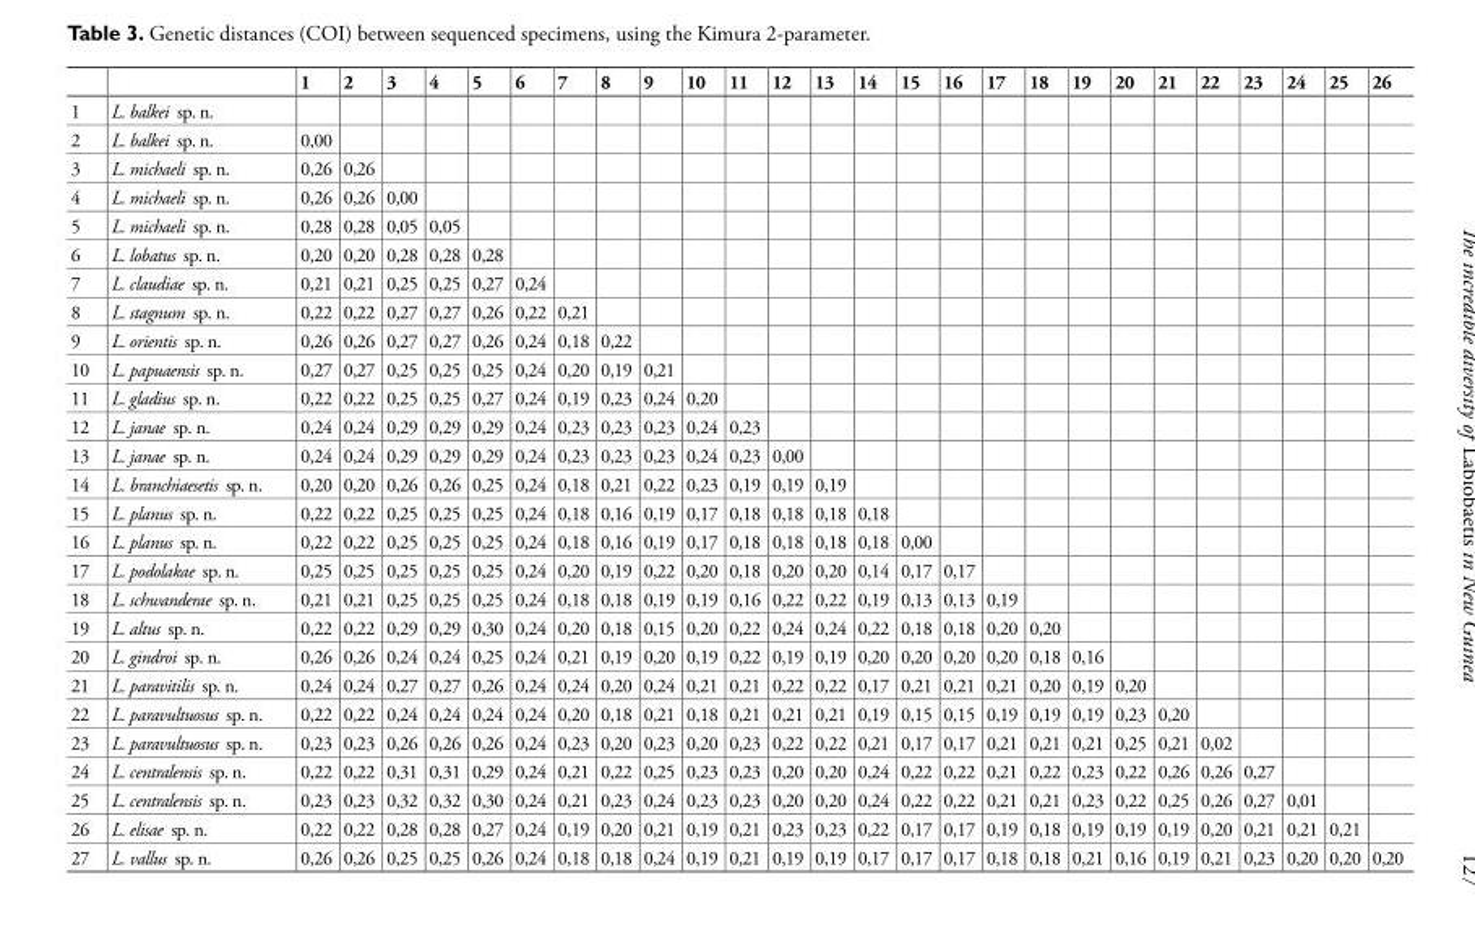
<table><thead><tr><td></td><td></td><td>1</td><td>2</td><td>3</td><td>4</td><td>5</td><td>6</td><td>7</td><td>8</td><td>9</td><td>10</td><td>11</td><td>12</td><td>13</td><td>14</td><td>15</td><td>16</td><td>17</td><td>18</td><td>19</td><td>20</td><td>21</td><td>22</td><td>23</td><td>24</td><td>25</td><td>26</td></tr></thead><tbody><tr><td>1</td><td>L. balkei sp. n.</td><td></td><td></td><td></td><td></td><td></td><td></td><td></td><td></td><td></td><td></td><td></td><td></td><td></td><td></td><td></td><td></td><td></td><td></td><td></td><td></td><td></td><td></td><td></td><td></td><td></td><td></td></tr><tr><td>2</td><td>L. balkei sp. n.</td><td>0,00</td><td></td><td></td><td></td><td></td><td></td><td></td><td></td><td></td><td></td><td></td><td></td><td></td><td></td><td></td><td></td><td></td><td></td><td></td><td></td><td></td><td></td><td></td><td></td><td></td><td></td></tr><tr><td>3</td><td>L. michaeli sp. n.</td><td>0,26</td><td>0,26</td><td></td><td></td><td></td><td></td><td></td><td></td><td></td><td></td><td></td><td></td><td></td><td></td><td></td><td></td><td></td><td></td><td></td><td></td><td></td><td></td><td></td><td></td><td></td><td></td></tr><tr><td>4</td><td>L. michaeli sp. n.</td><td>0,26</td><td>0,26</td><td>0,00</td><td></td><td></td><td></td><td></td><td></td><td></td><td></td><td></td><td></td><td></td><td></td><td></td><td></td><td></td><td></td><td></td><td></td><td></td><td></td><td></td><td></td><td></td><td></td></tr><tr><td>5</td><td>L. michaeli sp. n.</td><td>0,28</td><td>0,28</td><td>0,05</td><td>0,05</td><td></td><td></td><td></td><td></td><td></td><td></td><td></td><td></td><td></td><td></td><td></td><td></td><td></td><td></td><td></td><td></td><td></td><td></td><td></td><td></td><td></td><td></td></tr><tr><td>6</td><td>L. lobatus sp. n.</td><td>0,20</td><td>0,20</td><td>0,28</td><td>0,28</td><td>0,28</td><td></td><td></td><td></td><td></td><td></td><td></td><td></td><td></td><td></td><td></td><td></td><td></td><td></td><td></td><td></td><td></td><td></td><td></td><td></td><td></td><td></td></tr><tr><td>7</td><td>L. claudiae sp. n.</td><td>0,21</td><td>0,21</td><td>0,25</td><td>0,25</td><td>0,27</td><td>0,24</td><td></td><td></td><td></td><td></td><td></td><td></td><td></td><td></td><td></td><td></td><td></td><td></td><td></td><td></td><td></td><td></td><td></td><td></td><td></td><td></td></tr><tr><td>8</td><td>L. stagnum sp. n.</td><td>0,22</td><td>0,22</td><td>0,27</td><td>0,27</td><td>0,26</td><td>0,22</td><td>0,21</td><td></td><td></td><td></td><td></td><td></td><td></td><td></td><td></td><td></td><td></td><td></td><td></td><td></td><td></td><td></td><td></td><td></td><td></td><td></td></tr><tr><td>9</td><td>L. orientis sp. n.</td><td>0,26</td><td>0,26</td><td>0,27</td><td>0,27</td><td>0,26</td><td>0,24</td><td>0,18</td><td>0,22</td><td></td><td></td><td></td><td></td><td></td><td></td><td></td><td></td><td></td><td></td><td></td><td></td><td></td><td></td><td></td><td></td><td></td><td></td></tr><tr><td>10</td><td>L. papuaensis sp. n.</td><td>0,27</td><td>0,27</td><td>0,25</td><td>0,25</td><td>0,25</td><td>0,24</td><td>0,20</td><td>0,19</td><td>0,21</td><td></td><td></td><td></td><td></td><td></td><td></td><td></td><td></td><td></td><td></td><td></td><td></td><td></td><td></td><td></td><td></td><td></td></tr><tr><td>11</td><td>L. gladius sp. n.</td><td>0,22</td><td>0,22</td><td>0,25</td><td>0,25</td><td>0,27</td><td>0,24</td><td>0,19</td><td>0,23</td><td>0,24</td><td>0,20</td><td></td><td></td><td></td><td></td><td></td><td></td><td></td><td></td><td></td><td></td><td></td><td></td><td></td><td></td><td></td><td></td></tr><tr><td>12</td><td>L. janae sp. n.</td><td>0,24</td><td>0,24</td><td>0,29</td><td>0,29</td><td>0,29</td><td>0,24</td><td>0,23</td><td>0,23</td><td>0,23</td><td>0,24</td><td>0,23</td><td></td><td></td><td></td><td></td><td></td><td></td><td></td><td></td><td></td><td></td><td></td><td></td><td></td><td></td><td></td></tr><tr><td>13</td><td>L. janae sp. n.</td><td>0,24</td><td>0,24</td><td>0,29</td><td>0,29</td><td>0,29</td><td>0,24</td><td>0,23</td><td>0,23</td><td>0,23</td><td>0,24</td><td>0,23</td><td>0,00</td><td></td><td></td><td></td><td></td><td></td><td></td><td></td><td></td><td></td><td></td><td></td><td></td><td></td><td></td></tr><tr><td>14</td><td>L. branchiaesetis sp. n.</td><td>0,20</td><td>0,20</td><td>0,26</td><td>0,26</td><td>0,25</td><td>0,24</td><td>0,18</td><td>0,21</td><td>0,22</td><td>0,23</td><td>0,19</td><td>0,19</td><td>0,19</td><td></td><td></td><td></td><td></td><td></td><td></td><td></td><td></td><td></td><td></td><td></td><td></td><td></td></tr><tr><td>15</td><td>L. planus sp. n.</td><td>0,22</td><td>0,22</td><td>0,25</td><td>0,25</td><td>0,25</td><td>0,24</td><td>0,18</td><td>0,16</td><td>0,19</td><td>0,17</td><td>0,18</td><td>0,18</td><td>0,18</td><td>0,18</td><td></td><td></td><td></td><td></td><td></td><td></td><td></td><td></td><td></td><td></td><td></td><td></td></tr><tr><td>16</td><td>L. planus sp. n.</td><td>0,22</td><td>0,22</td><td>0,25</td><td>0,25</td><td>0,25</td><td>0,24</td><td>0,18</td><td>0,16</td><td>0,19</td><td>0,17</td><td>0,18</td><td>0,18</td><td>0,18</td><td>0,18</td><td>0,00</td><td></td><td></td><td></td><td></td><td></td><td></td><td></td><td></td><td></td><td></td><td></td></tr><tr><td>17</td><td>L. podolakae sp. n.</td><td>0,25</td><td>0,25</td><td>0,25</td><td>0,25</td><td>0,25</td><td>0,24</td><td>0,20</td><td>0,19</td><td>0,22</td><td>0,20</td><td>0,18</td><td>0,20</td><td>0,20</td><td>0,14</td><td>0,17</td><td>0,17</td><td></td><td></td><td></td><td></td><td></td><td></td><td></td><td></td><td></td><td></td></tr><tr><td>18</td><td>L. schwanderae sp. n.</td><td>0,21</td><td>0,21</td><td>0,25</td><td>0,25</td><td>0,25</td><td>0,24</td><td>0,18</td><td>0,18</td><td>0,19</td><td>0,19</td><td>0,16</td><td>0,22</td><td>0,22</td><td>0,19</td><td>0,13</td><td>0,13</td><td>0,19</td><td></td><td></td><td></td><td></td><td></td><td></td><td></td><td></td><td></td></tr><tr><td>19</td><td>L. altus sp. n.</td><td>0,22</td><td>0,22</td><td>0,29</td><td>0,29</td><td>0,30</td><td>0,24</td><td>0,20</td><td>0,18</td><td>0,15</td><td>0,20</td><td>0,22</td><td>0,24</td><td>0,24</td><td>0,22</td><td>0,18</td><td>0,18</td><td>0,20</td><td>0,20</td><td></td><td></td><td></td><td></td><td></td><td></td><td></td><td></td></tr><tr><td>20</td><td>L. gindroi sp. n.</td><td>0,26</td><td>0,26</td><td>0,24</td><td>0,24</td><td>0,25</td><td>0,24</td><td>0,21</td><td>0,19</td><td>0,20</td><td>0,19</td><td>0,22</td><td>0,19</td><td>0,19</td><td>0,20</td><td>0,20</td><td>0,20</td><td>0,20</td><td>0,18</td><td>0,16</td><td></td><td></td><td></td><td></td><td></td><td></td><td></td></tr><tr><td>21</td><td>L. paravitilis sp. n.</td><td>0,24</td><td>0,24</td><td>0,27</td><td>0,27</td><td>0,26</td><td>0,24</td><td>0,24</td><td>0,20</td><td>0,24</td><td>0,21</td><td>0,21</td><td>0,22</td><td>0,22</td><td>0,17</td><td>0,21</td><td>0,21</td><td>0,21</td><td>0,20</td><td>0,19</td><td>0,20</td><td></td><td></td><td></td><td></td><td></td><td></td></tr><tr><td>22</td><td>L. paravultuosus sp. n.</td><td>0,22</td><td>0,22</td><td>0,24</td><td>0,24</td><td>0,24</td><td>0,24</td><td>0,20</td><td>0,18</td><td>0,21</td><td>0,18</td><td>0,21</td><td>0,21</td><td>0,21</td><td>0,19</td><td>0,15</td><td>0,15</td><td>0,19</td><td>0,19</td><td>0,19</td><td>0,23</td><td>0,20</td><td></td><td></td><td></td><td></td><td></td></tr><tr><td>23</td><td>L. paravultuosus sp. n.</td><td>0,23</td><td>0,23</td><td>0,26</td><td>0,26</td><td>0,26</td><td>0,24</td><td>0,23</td><td>0,20</td><td>0,23</td><td>0,20</td><td>0,23</td><td>0,22</td><td>0,22</td><td>0,21</td><td>0,17</td><td>0,17</td><td>0,21</td><td>0,21</td><td>0,21</td><td>0,25</td><td>0,21</td><td>0,02</td><td></td><td></td><td></td><td></td></tr><tr><td>24</td><td>L. centralensis sp. n.</td><td>0,22</td><td>0,22</td><td>0,31</td><td>0,31</td><td>0,29</td><td>0,24</td><td>0,21</td><td>0,22</td><td>0,25</td><td>0,23</td><td>0,23</td><td>0,20</td><td>0,20</td><td>0,24</td><td>0,22</td><td>0,22</td><td>0,21</td><td>0,22</td><td>0,23</td><td>0,22</td><td>0,26</td><td>0,26</td><td>0,27</td><td></td><td></td><td></td></tr><tr><td>25</td><td>L. centralensis sp. n.</td><td>0,23</td><td>0,23</td><td>0,32</td><td>0,32</td><td>0,30</td><td>0,24</td><td>0,21</td><td>0,23</td><td>0,24</td><td>0,23</td><td>0,23</td><td>0,20</td><td>0,20</td><td>0,24</td><td>0,22</td><td>0,22</td><td>0,21</td><td>0,21</td><td>0,23</td><td>0,22</td><td>0,25</td><td>0,26</td><td>0,27</td><td>0,01</td><td></td><td></td></tr><tr><td>26</td><td>L. elisae sp. n.</td><td>0,22</td><td>0,22</td><td>0,28</td><td>0,28</td><td>0,27</td><td>0,24</td><td>0,19</td><td>0,20</td><td>0,21</td><td>0,19</td><td>0,21</td><td>0,23</td><td>0,23</td><td>0,22</td><td>0,17</td><td>0,17</td><td>0,19</td><td>0,18</td><td>0,19</td><td>0,19</td><td>0,19</td><td>0,20</td><td>0,21</td><td>0,21</td><td>0,21</td><td></td></tr><tr><td>27</td><td>L. vallus sp. n.</td><td>0,26</td><td>0,26</td><td>0,25</td><td>0,25</td><td>0,26</td><td>0,24</td><td>0,18</td><td>0,18</td><td>0,24</td><td>0,19</td><td>0,21</td><td>0,19</td><td>0,19</td><td>0,17</td><td>0,17</td><td>0,17</td><td>0,18</td><td>0,18</td><td>0,21</td><td>0,16</td><td>0,19</td><td>0,21</td><td>0,23</td><td>0,20</td><td>0,20</td><td>0,20</td></tr></tbody></table>